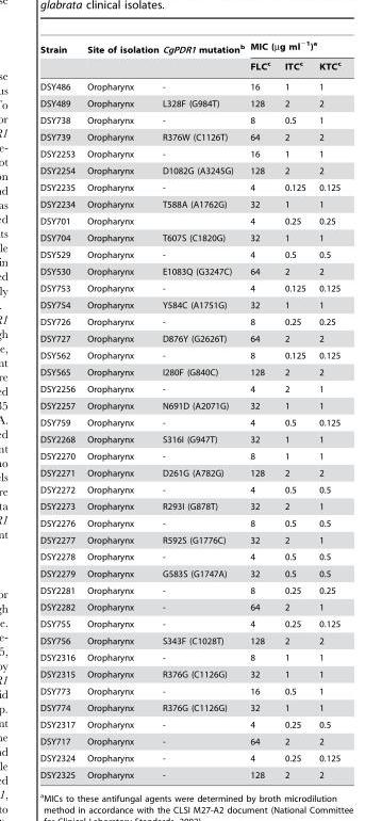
<table><thead><tr><td rowspan="2">Strain</td><td rowspan="2">Site of isolation</td><td rowspan="2">CgPDR1 mutation<sup>b</sup></td><td colspan="3">MIC (µg ml<sup>−1</sup>)<sup>a</sup></td></tr><tr><td>FLC<sup>c</sup></td><td>ITC<sup>c</sup></td><td>KTC<sup>c</sup></td></tr></thead><tbody><tr><td>DSY486</td><td>Oropharynx</td><td>-</td><td>16</td><td>1</td><td>1</td></tr><tr><td>DSY489</td><td>Oropharynx</td><td>L328F (G984T)</td><td>128</td><td>2</td><td>2</td></tr><tr><td>DSY738</td><td>Oropharynx</td><td>-</td><td>8</td><td>0.5</td><td>1</td></tr><tr><td>DSY739</td><td>Oropharynx</td><td>R376W (C1126T)</td><td>64</td><td>2</td><td>2</td></tr><tr><td>DSY2253</td><td>Oropharynx</td><td>-</td><td>16</td><td>1</td><td>1</td></tr><tr><td>DSY2254</td><td>Oropharynx</td><td>D1082G (A3245G)</td><td>128</td><td>2</td><td>2</td></tr><tr><td>DSY2235</td><td>Oropharynx</td><td>-</td><td>4</td><td>0.125</td><td>0.125</td></tr><tr><td>DSY2234</td><td>Oropharynx</td><td>T588A (A1762G)</td><td>32</td><td>1</td><td>1</td></tr><tr><td>DSY701</td><td>Oropharynx</td><td></td><td>4</td><td>0.25</td><td>0.25</td></tr><tr><td>DSY704</td><td>Oropharynx</td><td>T607S (C1820G)</td><td>32</td><td>1</td><td>1</td></tr><tr><td>DSY529</td><td>Oropharynx</td><td>-</td><td>4</td><td>0.5</td><td>0.5</td></tr><tr><td>DSY530</td><td>Oropharynx</td><td>E1083Q (G3247C)</td><td>64</td><td>2</td><td>2</td></tr><tr><td>DSY753</td><td>Oropharynx</td><td>-</td><td>4</td><td>0.125</td><td>0.125</td></tr><tr><td>DSY754</td><td>Oropharynx</td><td>Y584C (A1751G)</td><td>32</td><td>1</td><td>1</td></tr><tr><td>DSY726</td><td>Oropharynx</td><td>-</td><td>8</td><td>0.25</td><td>0.25</td></tr><tr><td>DSY727</td><td>Oropharynx</td><td>D876Y (G2626T)</td><td>64</td><td>2</td><td>2</td></tr><tr><td>DSY562</td><td>Oropharynx</td><td>-</td><td>8</td><td>0.125</td><td>0.125</td></tr><tr><td>DSY565</td><td>Oropharynx</td><td>I280F (G840C)</td><td>128</td><td>2</td><td>2</td></tr><tr><td>DSY2256</td><td>Oropharynx</td><td>-</td><td>4</td><td>2</td><td>1</td></tr><tr><td>DSY2257</td><td>Oropharynx</td><td>N691D (A2071G)</td><td>32</td><td>1</td><td>1</td></tr><tr><td>DSY759</td><td>Oropharynx</td><td>-</td><td>4</td><td>0.5</td><td>0.125</td></tr><tr><td>DSY2268</td><td>Oropharynx</td><td>S316I (G947T)</td><td>32</td><td>1</td><td>1</td></tr><tr><td>DSY2270</td><td>Oropharynx</td><td>-</td><td>8</td><td>1</td><td>1</td></tr><tr><td>DSY2271</td><td>Oropharynx</td><td>D261G (A782G)</td><td>128</td><td>2</td><td>2</td></tr><tr><td>DSY2272</td><td>Oropharynx</td><td>-</td><td>4</td><td>0.5</td><td>0.5</td></tr><tr><td>DSY2273</td><td>Oropharynx</td><td>R293I (G878T)</td><td>32</td><td>2</td><td>1</td></tr><tr><td>DSY2276</td><td>Oropharynx</td><td>-</td><td>8</td><td>0.5</td><td>0.5</td></tr><tr><td>DSY2277</td><td>Oropharynx</td><td>R592S (G1776C)</td><td>32</td><td>2</td><td>1</td></tr><tr><td>DSY2278</td><td>Oropharynx</td><td>-</td><td>4</td><td>0.5</td><td>0.5</td></tr><tr><td>DSY2279</td><td>Oropharynx</td><td>G583S (G1747A)</td><td>32</td><td>0.5</td><td>0.5</td></tr><tr><td>DSY2281</td><td>Oropharynx</td><td>-</td><td>8</td><td>0.25</td><td>0.25</td></tr><tr><td>DSY2282</td><td>Oropharynx</td><td>-</td><td>64</td><td>2</td><td>1</td></tr><tr><td>DSY755</td><td>Oropharynx</td><td>-</td><td>4</td><td>0.25</td><td>0.125</td></tr><tr><td>DSY756</td><td>Oropharynx</td><td>S343F (C1028T)</td><td>128</td><td>2</td><td>2</td></tr><tr><td>DSY2316</td><td>Oropharynx</td><td>-</td><td>8</td><td>1</td><td>1</td></tr><tr><td>DSY2315</td><td>Oropharynx</td><td>R376G (C1126G)</td><td>32</td><td>1</td><td>1</td></tr><tr><td>DSY773</td><td>Oropharynx</td><td>-</td><td>16</td><td>0.5</td><td>1</td></tr><tr><td>DSY774</td><td>Oropharynx</td><td>R376G (C1126G)</td><td>32</td><td>1</td><td>1</td></tr><tr><td>DSY2317</td><td>Oropharynx</td><td>-</td><td>4</td><td>0.25</td><td>0.5</td></tr><tr><td>DSY717</td><td>Oropharynx</td><td>-</td><td>64</td><td>2</td><td>2</td></tr><tr><td>DSY2324</td><td>Oropharynx</td><td>-</td><td>4</td><td>0.25</td><td>0.125</td></tr><tr><td>DSY2325</td><td>Oropharynx</td><td>-</td><td>128</td><td>2</td><td>2</td></tr></tbody></table>